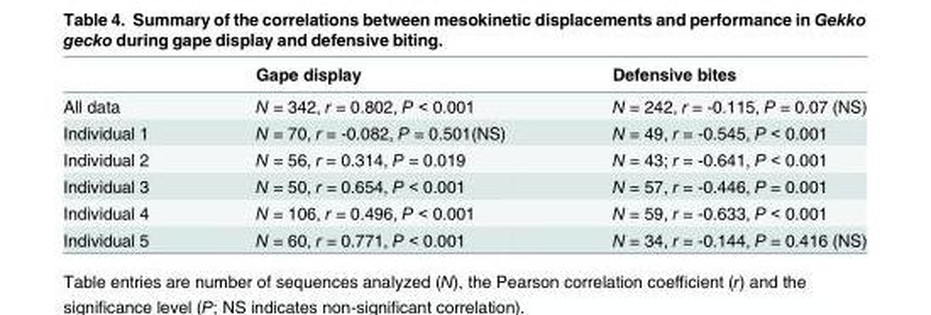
<table><thead><tr><td></td><td>Gape display</td><td>Defensive bites</td></tr></thead><tbody><tr><td>All data</td><td>N = 342, r = 0.802, P &lt; 0.001</td><td>N = 242, r = -0.115, P = 0.07 (NS)</td></tr><tr><td>Individual 1</td><td>N = 70, r = -0.082, P = 0.501(NS)</td><td>N = 49, r = -0.545, P &lt; 0.001</td></tr><tr><td>Individual 2</td><td>N = 56, r = 0.314, P = 0.019</td><td>N = 43; r = -0.641, P &lt; 0.001</td></tr><tr><td>Individual 3</td><td>N = 50, r = 0.654, P &lt; 0.001</td><td>N = 57, r = -0.446, P = 0.001</td></tr><tr><td>Individual 4</td><td>N = 106, r = 0.496, P &lt; 0.001</td><td>N = 59, r = -0.633, P &lt; 0.001</td></tr><tr><td>Individual 5</td><td>N = 60, r = 0.771, P &lt; 0.001</td><td>N = 34, r = -0.144, P = 0.416 (NS)</td></tr></tbody></table>